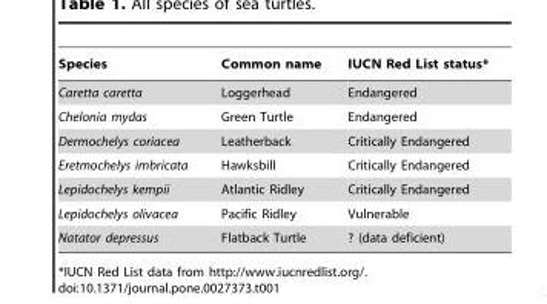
<table><thead><tr><td>Species</td><td>Common name</td><td>IUCN Red List status*</td></tr></thead><tbody><tr><td>Caretta caretta</td><td>Loggerhead</td><td>Endangered</td></tr><tr><td>Chelonia mydas</td><td>Green Turtle</td><td>Endangered</td></tr><tr><td>Dermochelys coriacea</td><td>Leatherback</td><td>Critically Endangered</td></tr><tr><td>Eretmochelys imbricata</td><td>Hawksbill</td><td>Critically Endangered</td></tr><tr><td>Lepidochelys kempii</td><td>Atlantic Ridley</td><td>Critically Endangered</td></tr><tr><td>Lepidochelys olivacea</td><td>Pacific Ridley</td><td>Vulnerable</td></tr><tr><td>Natator depressus</td><td>Flatback Turtle</td><td>? (data deficient)</td></tr></tbody></table>